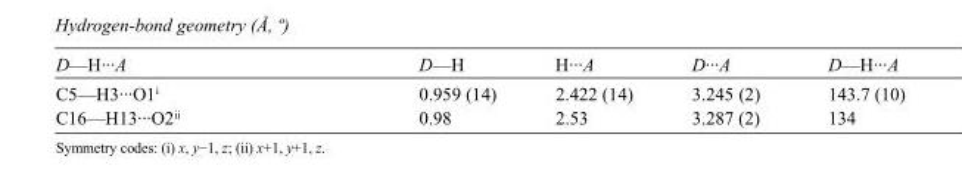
<table><tbody><tr><td>D—H···A</td><td>D—H</td><td>H···A</td><td>D···A</td><td>D—H···A</td></tr><tr><td>C5—H3···O1<sup>i</sup></td><td>0.959 (14)</td><td>2.422 (14)</td><td>3.245 (2)</td><td>143.7 (10)</td></tr><tr><td>C16—H13···O2<sup>ii</sup></td><td>0.98</td><td>2.53</td><td>3.287 (2)</td><td>134</td></tr></tbody></table>